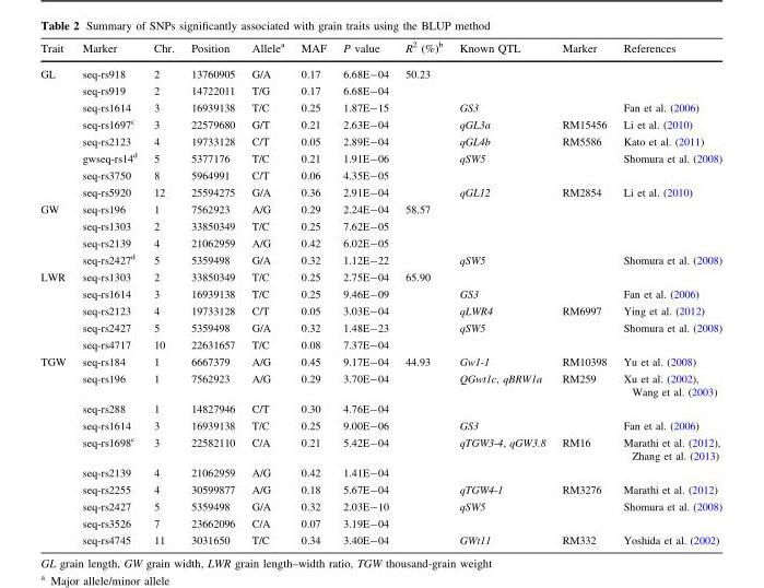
<table><thead><tr><td>Trait</td><td>Marker</td><td>Chr.</td><td>Position</td><td>Allele<sup>a</sup></td><td>MAF</td><td>P value</td><td>R<sup>2</sup> (%)<sup>b</sup></td><td>Known QTL</td><td>Marker</td><td>References</td></tr></thead><tbody><tr><td rowspan="8">GL</td><td>seq-rs918</td><td>2</td><td>13760905</td><td>G/A</td><td>0.17</td><td>6.68E-04</td><td>50.23</td><td></td><td></td><td></td></tr><tr><td>seq-rs919</td><td>2</td><td>14722011</td><td>T/G</td><td>0.17</td><td>6.68E-04</td><td></td><td></td><td></td><td></td></tr><tr><td>seq-rs1614</td><td>3</td><td>16939138</td><td>T/C</td><td>0.25</td><td>1.87E-15</td><td></td><td>GS3</td><td></td><td>Fan et al. (2006)</td></tr><tr><td>seq-rs1697<sup>c</sup></td><td>3</td><td>22579680</td><td>G/T</td><td>0.21</td><td>2.63E-04</td><td></td><td>qGL3a</td><td>RM15456</td><td>Li et al. (2010)</td></tr><tr><td>seq-rs2123</td><td>4</td><td>19733128</td><td>C/T</td><td>0.05</td><td>2.89E-04</td><td></td><td>qGL4b</td><td>RM5586</td><td>Kato et al. (2011)</td></tr><tr><td>gwseq-rs14<sup>d</sup></td><td>5</td><td>5377176</td><td>T/C</td><td>0.21</td><td>1.91E-06</td><td></td><td>qSW5</td><td></td><td>Shomura et al. (2008)</td></tr><tr><td>seq-rs3750</td><td>8</td><td>5964991</td><td>C/T</td><td>0.06</td><td>4.35E-05</td><td></td><td></td><td></td><td></td></tr><tr><td>seq-rs5920</td><td>12</td><td>25594275</td><td>G/A</td><td>0.36</td><td>2.91E-04</td><td></td><td>qGL12</td><td>RM2854</td><td>Li et al. (2010)</td></tr><tr><td rowspan="4">GW</td><td>seq-rs196</td><td>1</td><td>7562923</td><td>A/G</td><td>0.29</td><td>2.24E-04</td><td>58.57</td><td></td><td></td><td></td></tr><tr><td>seq-rs1303</td><td>2</td><td>33850349</td><td>T/C</td><td>0.25</td><td>7.62E-05</td><td></td><td></td><td></td><td></td></tr><tr><td>seq-rs2139</td><td>4</td><td>21062959</td><td>A/G</td><td>0.42</td><td>6.02E-05</td><td></td><td></td><td></td><td></td></tr><tr><td>seq-rs2427<sup>d</sup></td><td>5</td><td>5359498</td><td>G/A</td><td>0.32</td><td>1.12E-22</td><td></td><td>qSW5</td><td></td><td>Shomura et al. (2008)</td></tr><tr><td rowspan="5">LWR</td><td>seq-rs1303</td><td>2</td><td>33850349</td><td>T/C</td><td>0.25</td><td>2.75E-04</td><td>65.90</td><td></td><td></td><td></td></tr><tr><td>seq-rs1614</td><td>3</td><td>16939138</td><td>T/C</td><td>0.25</td><td>9.46E-09</td><td></td><td>GS3</td><td></td><td>Fan et al. (2006)</td></tr><tr><td>seq-rs2123</td><td>4</td><td>19733128</td><td>C/T</td><td>0.05</td><td>3.03E-04</td><td></td><td>qLWR4</td><td>RM6997</td><td>Ying et al. (2012)</td></tr><tr><td>seq-rs2427</td><td>5</td><td>5359498</td><td>G/A</td><td>0.32</td><td>1.48E-23</td><td></td><td>qSW5</td><td></td><td>Shomura et al. (2008)</td></tr><tr><td>seq-rs4717</td><td>10</td><td>22631657</td><td>T/C</td><td>0.08</td><td>7.37E-04</td><td></td><td></td><td></td><td></td></tr><tr><td rowspan="10">TGW</td><td>seq-rs184</td><td>1</td><td>6667379</td><td>A/G</td><td>0.45</td><td>9.17E-04</td><td>44.93</td><td>Gw1-1</td><td>RM10398</td><td>Yu et al. (2008)</td></tr><tr><td>seq-rs196</td><td>1</td><td>7562923</td><td>A/G</td><td>0.29</td><td>3.70E-04</td><td></td><td>QGwt1c, qBRW1a</td><td>RM259</td><td>Xu et al. (2002), Wang et al. (2003)</td></tr><tr><td>seq-rs288</td><td>1</td><td>14827946</td><td>C/T</td><td>0.30</td><td>4.76E-04</td><td></td><td></td><td></td><td></td></tr><tr><td>seq-rs1614</td><td>3</td><td>16939138</td><td>T/C</td><td>0.25</td><td>9.00E-06</td><td></td><td>GS3</td><td></td><td>Fan et al. (2006)</td></tr><tr><td>seq-rs1698<sup>c</sup></td><td>3</td><td>22582110</td><td>C/A</td><td>0.21</td><td>5.42E-04</td><td></td><td>qTGW3-4, qGW3.8</td><td>RM16</td><td>Marathi et al. (2012), Zhang et al. (2013)</td></tr><tr><td>seq-rs2139</td><td>4</td><td>21062959</td><td>A/G</td><td>0.42</td><td>1.41E-04</td><td></td><td></td><td></td><td></td></tr><tr><td>seq-rs2255</td><td>4</td><td>30599877</td><td>A/G</td><td>0.18</td><td>5.67E-04</td><td></td><td>qTGW4-1</td><td>RM3276</td><td>Marathi et al. (2012)</td></tr><tr><td>seq-rs2427</td><td>5</td><td>5359498</td><td>G/A</td><td>0.32</td><td>2.03E-10</td><td></td><td>qSW5</td><td></td><td>Shomura et al. (2008)</td></tr><tr><td>seq-rs3526</td><td>7</td><td>23662096</td><td>C/A</td><td>0.07</td><td>3.19E-04</td><td></td><td></td><td></td><td></td></tr><tr><td>seq-rs4745</td><td>11</td><td>3031650</td><td>T/C</td><td>0.34</td><td>3.40E-04</td><td></td><td>GWt11</td><td>RM332</td><td>Yoshida et al. (2002)</td></tr></tbody></table>